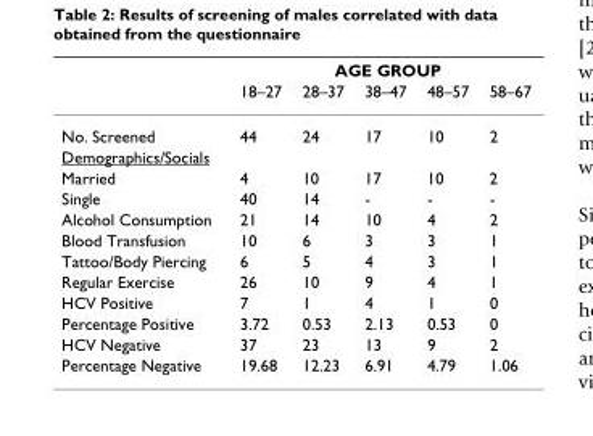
<table><thead><tr><td rowspan="2"></td><td colspan="5">AGE GROUP</td></tr><tr><td>18–27</td><td>28–37</td><td>38–47</td><td>48–57</td><td>58–67</td></tr></thead><tbody><tr><td>No. Screened</td><td>44</td><td>24</td><td>17</td><td>10</td><td>2</td></tr><tr><td colspan="6">Demographics/Socials</td></tr><tr><td>Married</td><td>4</td><td>10</td><td>17</td><td>10</td><td>2</td></tr><tr><td>Single</td><td>40</td><td>14</td><td>-</td><td>-</td><td>-</td></tr><tr><td>Alcohol Consumption</td><td>21</td><td>14</td><td>10</td><td>4</td><td>2</td></tr><tr><td>Blood Transfusion</td><td>10</td><td>6</td><td>3</td><td>3</td><td>1</td></tr><tr><td>Tattoo/Body Piercing</td><td>6</td><td>5</td><td>4</td><td>3</td><td>1</td></tr><tr><td>Regular Exercise</td><td>26</td><td>10</td><td>9</td><td>4</td><td>1</td></tr><tr><td>HCV Positive</td><td>7</td><td>1</td><td>4</td><td>1</td><td>0</td></tr><tr><td>Percentage Positive</td><td>3.72</td><td>0.53</td><td>2.13</td><td>0.53</td><td>0</td></tr><tr><td>HCV Negative</td><td>37</td><td>23</td><td>13</td><td>9</td><td>2</td></tr><tr><td>Percentage Negative</td><td>19.68</td><td>12.23</td><td>6.91</td><td>4.79</td><td>1.06</td></tr></tbody></table>